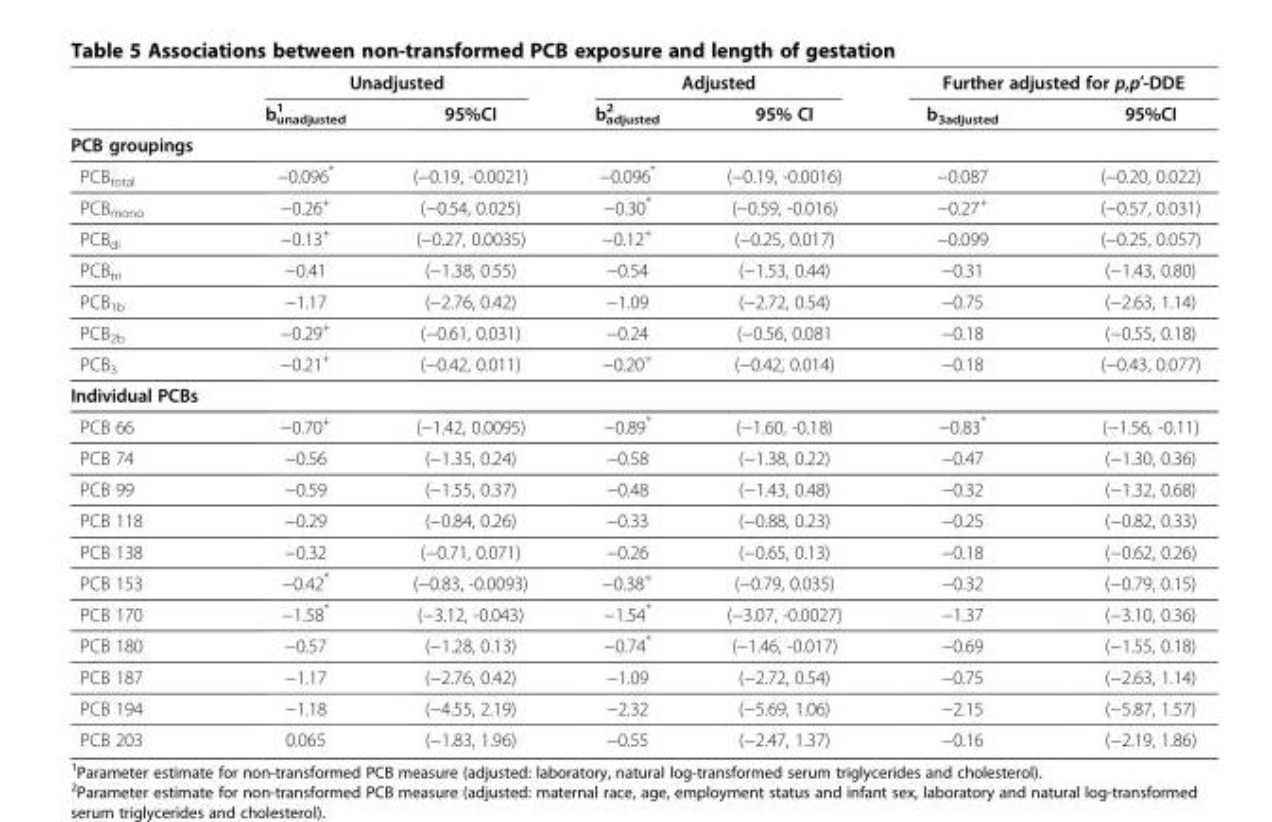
<table><thead><tr><td rowspan="2"></td><td colspan="2">Unadjusted</td><td colspan="2">Adjusted</td><td colspan="2">Further adjusted for p,p′-DDE</td></tr><tr><td>b<sub>unadjusted</sub> <sup>1</sup></td><td>95%CI</td><td>b<sub>adjusted</sub> <sup>2</sup></td><td>95% CI</td><td>b<sub>3adjusted</sub></td><td>95%CI</td></tr></thead><tbody><tr><td colspan="7">PCB groupings</td></tr><tr><td>PCB<sub>total</sub></td><td>−0.096*</td><td>(−0.19, -0.0021)</td><td>−0.096*</td><td>(−0.19, -0.0016)</td><td>−0.087</td><td>(−0.20, 0.022)</td></tr><tr><td>PCB<sub>mono</sub></td><td>−0.26<sup>+</sup></td><td>(−0.54, 0.025)</td><td>−0.30*</td><td>(−0.59, -0.016)</td><td>−0.27<sup>+</sup></td><td>(−0.57, 0.031)</td></tr><tr><td>PCB<sub>di</sub></td><td>−0.13<sup>+</sup></td><td>(−0.27, 0.0035)</td><td>−0.12<sup>+</sup></td><td>(−0.25, 0.017)</td><td>−0.099</td><td>(−0.25, 0.057)</td></tr><tr><td>PCB<sub>tri</sub></td><td>−0.41</td><td>(−1.38, 0.55)</td><td>−0.54</td><td>(−1.53, 0.44)</td><td>−0.31</td><td>(−1.43, 0.80)</td></tr><tr><td>PCB<sub>1b</sub></td><td>−1.17</td><td>(−2.76, 0.42)</td><td>−1.09</td><td>(−2.72, 0.54)</td><td>−0.75</td><td>(−2.63, 1.14)</td></tr><tr><td>PCB<sub>2b</sub></td><td>−0.29<sup>+</sup></td><td>(−0.61, 0.031)</td><td>−0.24</td><td>(−0.56, 0.081</td><td>−0.18</td><td>(−0.55, 0.18)</td></tr><tr><td>PCB<sub>3</sub></td><td>−0.21<sup>+</sup></td><td>(−0.42, 0.011)</td><td>−0.20<sup>+</sup></td><td>(−0.42, 0.014)</td><td>−0.18</td><td>(−0.43, 0.077)</td></tr><tr><td colspan="7">Individual PCBs</td></tr><tr><td>PCB 66</td><td>−0.70<sup>+</sup></td><td>(−1.42, 0.0095)</td><td>−0.89*</td><td>(−1.60, -0.18)</td><td>−0.83*</td><td>(−1.56, -0.11)</td></tr><tr><td>PCB 74</td><td>−0.56</td><td>(−1.35, 0.24)</td><td>−0.58</td><td>(−1.38, 0.22)</td><td>−0.47</td><td>(−1.30, 0.36)</td></tr><tr><td>PCB 99</td><td>−0.59</td><td>(−1.55, 0.37)</td><td>−0.48</td><td>(−1.43, 0.48)</td><td>−0.32</td><td>(−1.32, 0.68)</td></tr><tr><td>PCB 118</td><td>−0.29</td><td>(−0.84, 0.26)</td><td>−0.33</td><td>(−0.88, 0.23)</td><td>−0.25</td><td>(−0.82, 0.33)</td></tr><tr><td>PCB 138</td><td>−0.32</td><td>(−0.71, 0.071)</td><td>−0.26</td><td>(−0.65, 0.13)</td><td>−0.18</td><td>(−0.62, 0.26)</td></tr><tr><td>PCB 153</td><td>−0.42*</td><td>(−0.83, -0.0093)</td><td>−0.38<sup>+</sup></td><td>(−0.79, 0.035)</td><td>−0.32</td><td>(−0.79, 0.15)</td></tr><tr><td>PCB 170</td><td>−1.58*</td><td>(−3.12, -0.043)</td><td>−1.54*</td><td>(−3.07, -0.0027)</td><td>−1.37</td><td>(−3.10, 0.36)</td></tr><tr><td>PCB 180</td><td>−0.57</td><td>(−1.28, 0.13)</td><td>−0.74*</td><td>(−1.46, -0.017)</td><td>−0.69</td><td>(−1.55, 0.18)</td></tr><tr><td>PCB 187</td><td>−1.17</td><td>(−2.76, 0.42)</td><td>−1.09</td><td>(−2.72, 0.54)</td><td>−0.75</td><td>(−2.63, 1.14)</td></tr><tr><td>PCB 194</td><td>−1.18</td><td>(−4.55, 2.19)</td><td>−2.32</td><td>(−5.69, 1.06)</td><td>−2.15</td><td>(−5.87, 1.57)</td></tr><tr><td>PCB 203</td><td>0.065</td><td>(−1.83, 1.96)</td><td>−0.55</td><td>(−2.47, 1.37)</td><td>−0.16</td><td>(−2.19, 1.86)</td></tr></tbody></table>